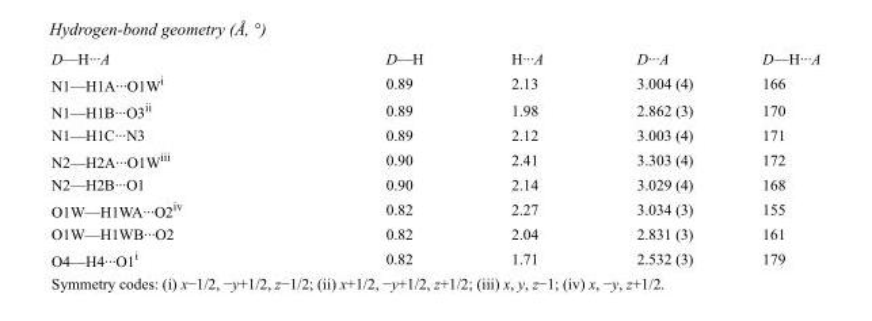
<table><tbody><tr><td>D—H···A</td><td>D—H</td><td>H···A</td><td>D···A</td><td>D—H···A</td></tr><tr><td>N1—H1A···O1W<sup>i</sup></td><td>0.89</td><td>2.13</td><td>3.004 (4)</td><td>166</td></tr><tr><td>N1—H1B···O3<sup>ii</sup></td><td>0.89</td><td>1.98</td><td>2.862 (3)</td><td>170</td></tr><tr><td>N1—H1C···N3</td><td>0.89</td><td>2.12</td><td>3.003 (4)</td><td>171</td></tr><tr><td>N2—H2A···O1W<sup>iii</sup></td><td>0.90</td><td>2.41</td><td>3.303 (4)</td><td>172</td></tr><tr><td>N2—H2B···O1</td><td>0.90</td><td>2.14</td><td>3.029 (4)</td><td>168</td></tr><tr><td>O1W—H1WA···O2<sup>iv</sup></td><td>0.82</td><td>2.27</td><td>3.034 (3)</td><td>155</td></tr><tr><td>O1W—H1WB···O2</td><td>0.82</td><td>2.04</td><td>2.831 (3)</td><td>161</td></tr><tr><td>O4—H4···O1<sup>i</sup></td><td>0.82</td><td>1.71</td><td>2.532 (3)</td><td>179</td></tr></tbody></table>